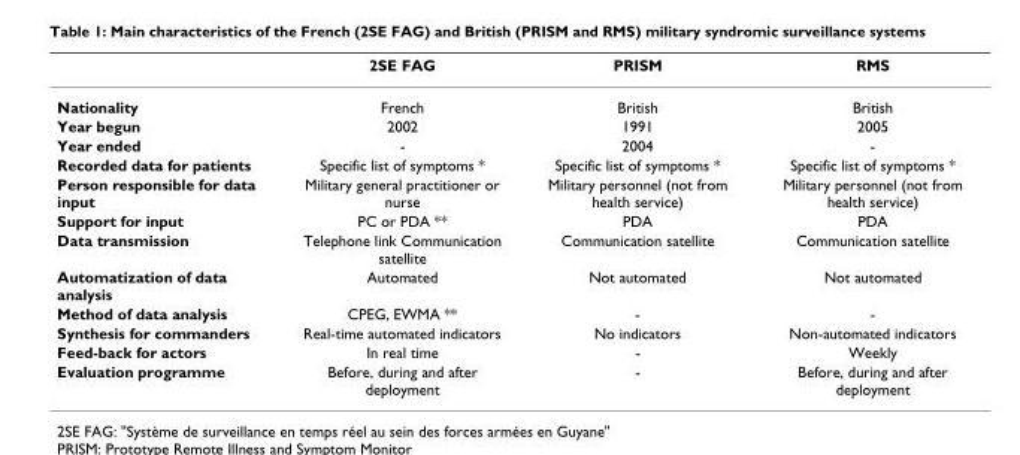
<table><thead><tr><td></td><td>2SE FAG</td><td>PRISM</td><td>RMS</td></tr></thead><tbody><tr><td>Nationality</td><td>French</td><td>British</td><td>British</td></tr><tr><td>Year begun</td><td>2002</td><td>1991</td><td>2005</td></tr><tr><td>Year ended</td><td>-</td><td>2004</td><td>-</td></tr><tr><td>Recorded data for patients</td><td>Specific list of symptoms *</td><td>Specific list of symptoms *</td><td>Specific list of symptoms *</td></tr><tr><td>Person responsible for data input</td><td>Military general practitioner or nurse</td><td>Military personnel (not from health service)</td><td>Military personnel (not from health service)</td></tr><tr><td>Support for input</td><td>PC or PDA **</td><td>PDA</td><td>PDA</td></tr><tr><td>Data transmission</td><td>Telephone link Communication satellite</td><td>Communication satellite</td><td>Communication satellite</td></tr><tr><td>Automatization of data analysis</td><td>Automated</td><td>Not automated</td><td>Not automated</td></tr><tr><td>Method of data analysis</td><td>CPEG, EWMA **</td><td>-</td><td>-</td></tr><tr><td>Synthesis for commanders</td><td>Real-time automated indicators</td><td>No indicators</td><td>Non-automated indicators</td></tr><tr><td>Feed-back for actors</td><td>In real time</td><td>-</td><td>Weekly</td></tr><tr><td>Evaluation programme</td><td>Before, during and after deployment</td><td>-</td><td>Before, during and after deployment</td></tr></tbody></table>